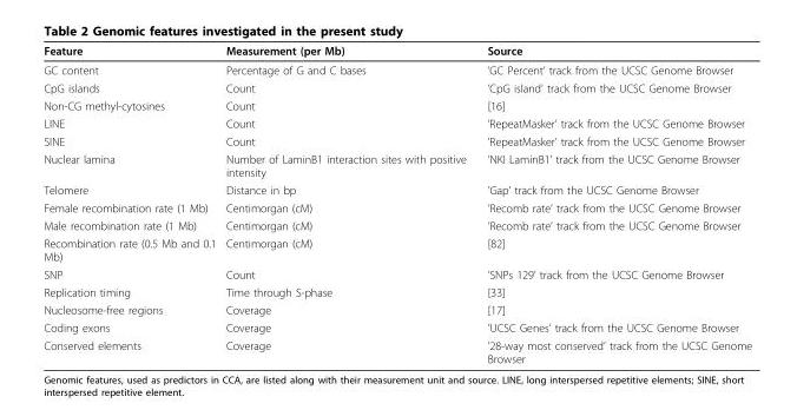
<table><thead><tr><td>Feature</td><td>Measurement (per Mb)</td><td>Source</td></tr></thead><tbody><tr><td>GC content</td><td>Percentage of G and C bases</td><td>’GC Percent’ track from the UCSC Genome Browser</td></tr><tr><td>CpG islands</td><td>Count</td><td>’CpG island’ track from the UCSC Genome Browser</td></tr><tr><td>Non-CG methyl-cytosines</td><td>Count</td><td>[16]</td></tr><tr><td>LINE</td><td>Count</td><td>’RepeatMasker’ track from the UCSC Genome Browser</td></tr><tr><td>SINE</td><td>Count</td><td>’RepeatMasker’ track from the UCSC Genome Browser</td></tr><tr><td>Nuclear lamina</td><td>Number of LaminB1 interaction sites with positive intensity</td><td>’NKI LaminB1’ track from the UCSC Genome Browser</td></tr><tr><td>Telomere</td><td>Distance in bp</td><td>’Gap’ track from the UCSC Genome Browser</td></tr><tr><td>Female recombination rate (1 Mb)</td><td>Centimorgan (cM)</td><td>’Recomb rate’ track from the UCSC Genome Browser</td></tr><tr><td>Male recombination rate (1 Mb)</td><td>Centimorgan (cM)</td><td>’Recomb rate’ track from the UCSC Genome Browser</td></tr><tr><td>Recombination rate (0.5 Mb and 0.1 Mb)</td><td>Centimorgan (cM)</td><td>[82]</td></tr><tr><td>SNP</td><td>Count</td><td>’SNPs 129’ track from the UCSC Genome Browser</td></tr><tr><td>Replication timing</td><td>Time through S-phase</td><td>[33]</td></tr><tr><td>Nucleosome-free regions</td><td>Coverage</td><td>[17]</td></tr><tr><td>Coding exons</td><td>Coverage</td><td>’UCSC Genes’ track from the UCSC Genome Browser</td></tr><tr><td>Conserved elements</td><td>Coverage</td><td>’28-way most conserved’ track from the UCSC Genome Browser</td></tr></tbody></table>